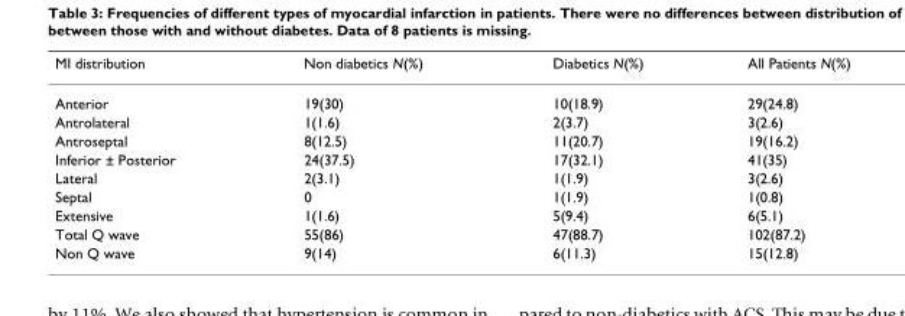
<table><thead><tr><td>MI distribution</td><td>Non diabetics N(%)</td><td>Diabetics N(%)</td><td>All Patients N(%)</td></tr></thead><tbody><tr><td>Anterior</td><td>19(30)</td><td>10(18.9)</td><td>29(24.8)</td></tr><tr><td>Antrolateral</td><td>1(1.6)</td><td>2(3.7)</td><td>3(2.6)</td></tr><tr><td>Antroseptal</td><td>8(12.5)</td><td>11(20.7)</td><td>19(16.2)</td></tr><tr><td>Inferior ± Posterior</td><td>24(37.5)</td><td>17(32.1)</td><td>41(35)</td></tr><tr><td>Lateral</td><td>2(3.1)</td><td>1(1.9)</td><td>3(2.6)</td></tr><tr><td>Septal</td><td>0</td><td>1(1.9)</td><td>1(0.8)</td></tr><tr><td>Extensive</td><td>1(1.6)</td><td>5(9.4)</td><td>6(5.1)</td></tr><tr><td>Total Q wave</td><td>55(86)</td><td>47(88.7)</td><td>102(87.2)</td></tr><tr><td>Non Q wave</td><td>9(14)</td><td>6(11.3)</td><td>15(12.8)</td></tr></tbody></table>